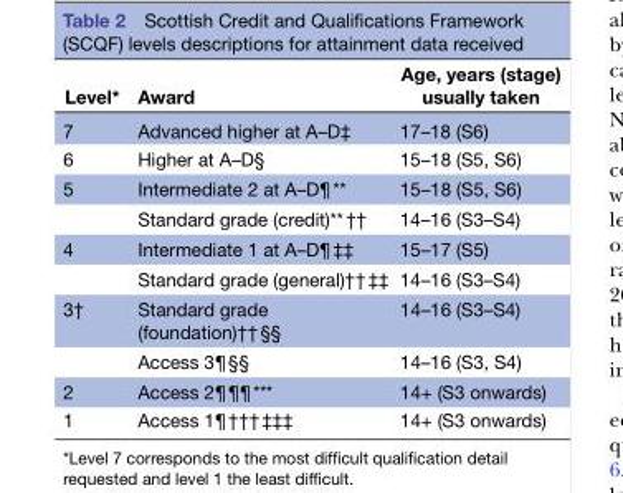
<table><thead><tr><td>Level*</td><td>Award</td><td>Age, years (stage) usually taken</td></tr></thead><tbody><tr><td>7</td><td>Advanced higher at A–D‡</td><td>17–18 (S6)</td></tr><tr><td>6</td><td>Higher at A–D§</td><td>15–18 (S5, S6)</td></tr><tr><td rowspan="2">5</td><td>Intermediate 2 at A–D¶ **</td><td>15–18 (S5, S6)</td></tr><tr><td>Standard grade (credit)** ††</td><td>14–16 (S3–S4)</td></tr><tr><td rowspan="2">4</td><td>Intermediate 1 at A–D¶ ‡‡</td><td>15–17 (S5)</td></tr><tr><td>Standard grade (general)†† ‡‡</td><td>14–16 (S3–S4)</td></tr><tr><td rowspan="2">3†</td><td>Standard grade (foundation)†† §§</td><td>14–16 (S3–S4)</td></tr><tr><td>Access 3¶ §§</td><td>14–16 (S3, S4)</td></tr><tr><td>2</td><td>Access 2¶ ¶¶ ***</td><td>14+ (S3 onwards)</td></tr><tr><td>1</td><td>Access 1¶ ††† ‡‡‡</td><td>14+ (S3 onwards)</td></tr></tbody></table>